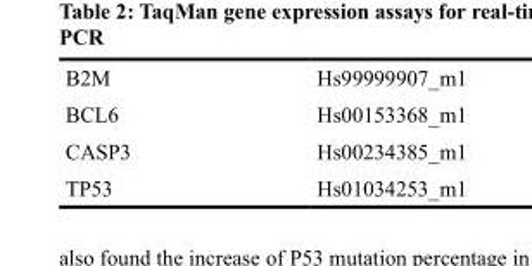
<table><tbody><tr><td>B2M</td><td>Hs99999907_m1</td></tr><tr><td>BCL6</td><td>Hs00153368_m1</td></tr><tr><td>CASP3</td><td>Hs00234385_m1</td></tr><tr><td>TP53</td><td>Hs01034253_m1</td></tr></tbody></table>